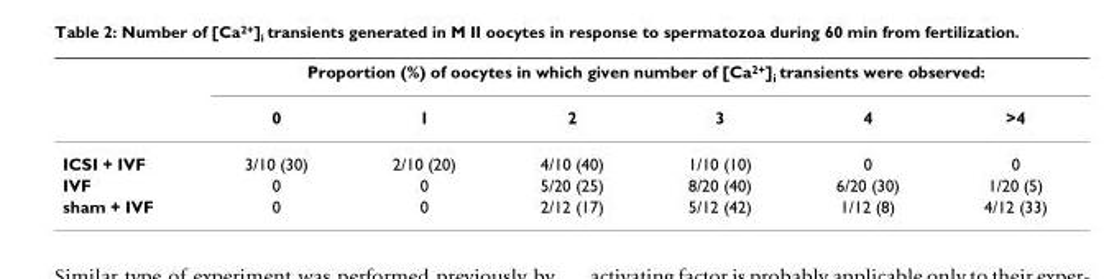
<table><thead><tr><td rowspan="2"></td><td colspan="6">Proportion (%) of oocytes in which given number of [Ca<sup>2+</sup>]<sub>i</sub> transients were observed:</td></tr><tr><td>0</td><td>1</td><td>2</td><td>3</td><td>4</td><td>&gt;4</td></tr></thead><tbody><tr><td>ICSI + IVF</td><td>3/10 (30)</td><td>2/10 (20)</td><td>4/10 (40)</td><td>1/10 (10)</td><td>0</td><td>0</td></tr><tr><td>IVF</td><td>0</td><td>0</td><td>5/20 (25)</td><td>8/20 (40)</td><td>6/20 (30)</td><td>1/20 (5)</td></tr><tr><td>sham + IVF</td><td>0</td><td>0</td><td>2/12 (17)</td><td>5/12 (42)</td><td>1/12 (8)</td><td>4/12 (33)</td></tr></tbody></table>